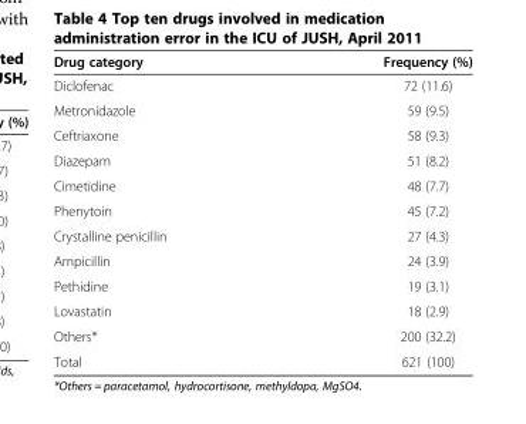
<table><thead><tr><td>Drug category</td><td>Frequency (%)</td></tr></thead><tbody><tr><td>Diclofenac</td><td>72 (11.6)</td></tr><tr><td>Metronidazole</td><td>59 (9.5)</td></tr><tr><td>Ceftriaxone</td><td>58 (9.3)</td></tr><tr><td>Diazepam</td><td>51 (8.2)</td></tr><tr><td>Cimetidine</td><td>48 (7.7)</td></tr><tr><td>Phenytoin</td><td>45 (7.2)</td></tr><tr><td>Crystalline penicillin</td><td>27 (4.3)</td></tr><tr><td>Ampicillin</td><td>24 (3.9)</td></tr><tr><td>Pethidine</td><td>19 (3.1)</td></tr><tr><td>Lovastatin</td><td>18 (2.9)</td></tr><tr><td>Others*</td><td>200 (32.2)</td></tr><tr><td>Total</td><td>621 (100)</td></tr></tbody></table>